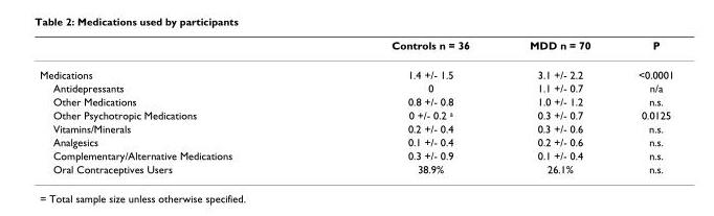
<table><thead><tr><td></td><td>Controls n = 36</td><td>MDD n = 70</td><td>P</td></tr></thead><tbody><tr><td>Medications</td><td>1.4 +/- 1.5</td><td>3.1 +/- 2.2</td><td>&lt;0.0001</td></tr><tr><td>Antidepressants</td><td>0</td><td>1.1 +/- 0.7</td><td>n/a</td></tr><tr><td>Other Medications</td><td>0.8 +/- 0.8</td><td>1.0 +/- 1.2</td><td>n.s.</td></tr><tr><td>Other Psychotropic Medications</td><td>0 +/- 0.2 <sup>a</sup></td><td>0.3 +/- 0.7</td><td>0.0125</td></tr><tr><td>Vitamins/Minerals</td><td>0.2 +/- 0.4</td><td>0.3 +/- 0.6</td><td>n.s.</td></tr><tr><td>Analgesics</td><td>0.1 +/- 0.4</td><td>0.2 +/- 0.6</td><td>n.s.</td></tr><tr><td>Complementary/Alternative Medications</td><td>0.3 +/- 0.9</td><td>0.1 +/- 0.4</td><td>n.s.</td></tr><tr><td>Oral Contraceptives Users</td><td>38.9%</td><td>26.1%</td><td>n.s.</td></tr></tbody></table>